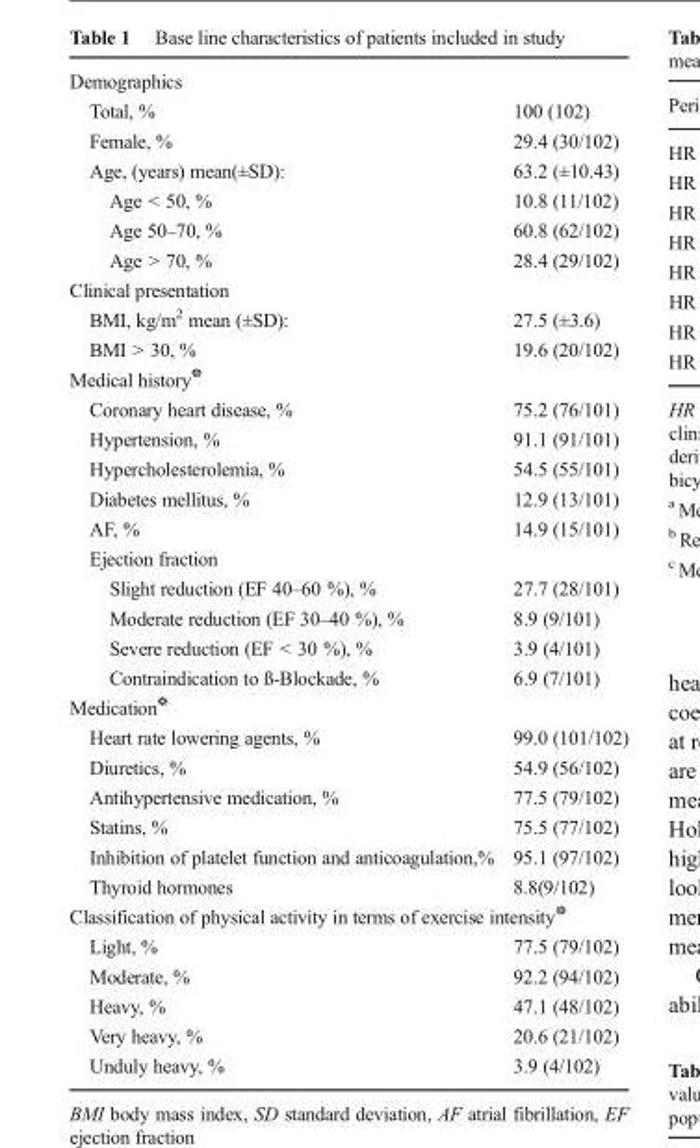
<table><tbody><tr><td colspan="2">Demographics</td></tr><tr><td>Total, %</td><td>100 (102)</td></tr><tr><td>Female, %</td><td>29.4 (30/102)</td></tr><tr><td>Age, (years) mean(±SD):</td><td>63.2 (±10.43)</td></tr><tr><td>Age &lt; 50, %</td><td>10.8 (11/102)</td></tr><tr><td>Age 50–70, %</td><td>60.8 (62/102)</td></tr><tr><td>Age &gt; 70, %</td><td>28.4 (29/102)</td></tr><tr><td colspan="2">Clinical presentation</td></tr><tr><td>BMI, kg/m<sup>2</sup> mean (±SD):</td><td>27.5 (±3.6)</td></tr><tr><td>BMI &gt; 30, %</td><td>19.6 (20/102)</td></tr><tr><td colspan="2">Medical history<sup>❋</sup></td></tr><tr><td>Coronary heart disease, %</td><td>75.2 (76/101)</td></tr><tr><td>Hypertension, %</td><td>91.1 (91/101)</td></tr><tr><td>Hypercholesterolemia, %</td><td>54.5 (55/101)</td></tr><tr><td>Diabetes mellitus, %</td><td>12.9 (13/101)</td></tr><tr><td>AF, %</td><td>14.9 (15/101)</td></tr><tr><td colspan="2">Ejection fraction</td></tr><tr><td>Slight reduction (EF 40–60 %), %</td><td>27.7 (28/101)</td></tr><tr><td>Moderate reduction (EF 30–40 %), %</td><td>8.9 (9/101)</td></tr><tr><td>Severe reduction (EF &lt; 30 %), %</td><td>3.9 (4/101)</td></tr><tr><td>Contraindication to ß-Blockade, %</td><td>6.9 (7/101)</td></tr><tr><td colspan="2">Medication<sup>❋</sup></td></tr><tr><td>Heart rate lowering agents, %</td><td>99.0 (101/102)</td></tr><tr><td>Diuretics, %</td><td>54.9 (56/102)</td></tr><tr><td>Antihypertensive medication, %</td><td>77.5 (79/102)</td></tr><tr><td>Statins, %</td><td>75.5 (77/102)</td></tr><tr><td>Inhibition of platelet function and anticoagulation,%</td><td>95.1 (97/102)</td></tr><tr><td>Thyroid hormones</td><td>8.8(9/102)</td></tr><tr><td colspan="2">Classification of physical activity in terms of exercise intensity<sup>❋</sup></td></tr><tr><td>Light, %</td><td>77.5 (79/102)</td></tr><tr><td>Moderate, %</td><td>92.2 (94/102)</td></tr><tr><td>Heavy, %</td><td>47.1 (48/102)</td></tr><tr><td>Very heavy, %</td><td>20.6 (21/102)</td></tr><tr><td>Unduly heavy, %</td><td>3.9 (4/102)</td></tr></tbody></table>